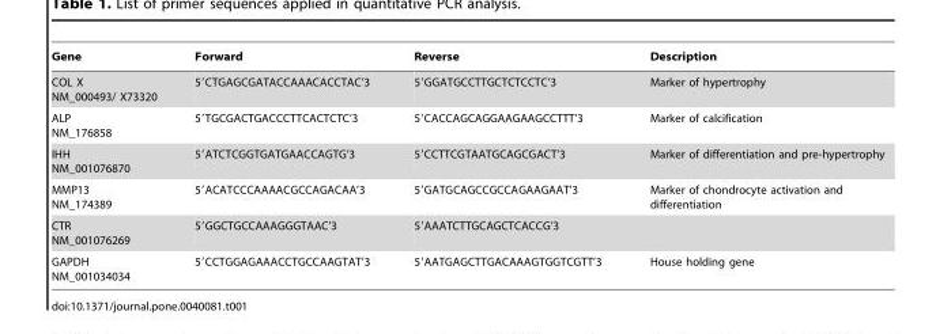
<table><thead><tr><td>Gene</td><td>Forward</td><td>Reverse</td><td>Description</td></tr></thead><tbody><tr><td>COL X NM_000493/ X73320</td><td>5′CTGAGCGATACCAAACACCTAC’3</td><td>5′GGATGCCTTGCTCTCCTC’3</td><td>Marker of hypertrophy</td></tr><tr><td>ALP NM_176858</td><td>5′TGCGACTGACCCTTCACTCTC’3</td><td>5′CACCAGCAGGAAGAAGCCTTT’3</td><td>Marker of calcification</td></tr><tr><td>IHH NM_001076870</td><td>5′ATCTCGGTGATGAACCAGTG’3</td><td>5′CCTTCGTAATGCAGCGACT’3</td><td>Marker of differentiation and pre-hypertrophy</td></tr><tr><td>MMP13 NM_174389</td><td>5′ACATCCCAAAACGCCAGACAA’3</td><td>5′GATGCAGCCGCCAGAAGAAT’3</td><td>Marker of chondrocyte activation and differentiation</td></tr><tr><td>CTR NM_001076269</td><td>5′GGCTGCCAAAGGGTAAC’3</td><td>5′AAATCTTGCAGCTCACCG’3</td><td></td></tr><tr><td>GAPDH NM_001034034</td><td>5′CCTGGAGAAACCTGCCAAGTAT’3</td><td>5′AATGAGCTTGACAAAGTGGTCGTT’3</td><td>House holding gene</td></tr></tbody></table>